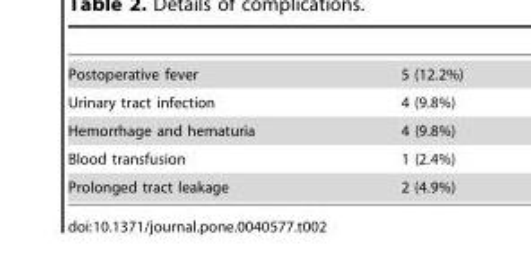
<table><tbody><tr><td>Postoperative fever</td><td>5 (12.2%)</td></tr><tr><td>Urinary tract infection</td><td>4 (9.8%)</td></tr><tr><td>Hemorrhage and hematuria</td><td>4 (9.8%)</td></tr><tr><td>Blood transfusion</td><td>1 (2.4%)</td></tr><tr><td>Prolonged tract leakage</td><td>2 (4.9%)</td></tr></tbody></table>